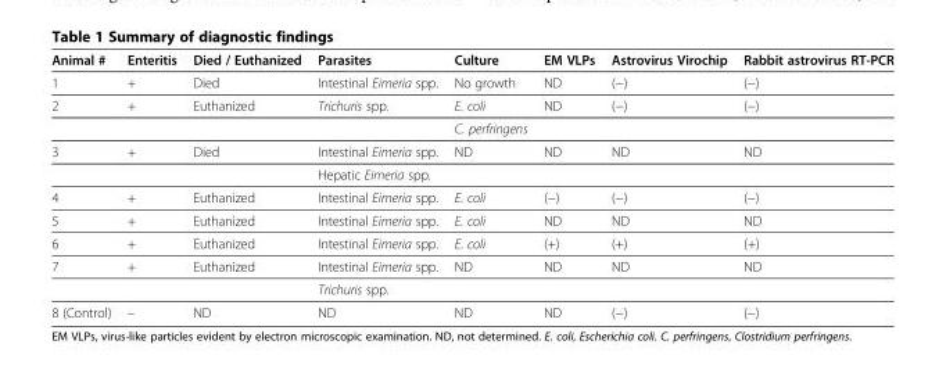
<table><thead><tr><td>Animal #</td><td>Enteritis</td><td>Died / Euthanized</td><td>Parasites</td><td>Culture</td><td>EM VLPs</td><td>Astrovirus Virochip</td><td>Rabbit astrovirus RT-PCR</td></tr></thead><tbody><tr><td>1</td><td>+</td><td>Died</td><td>Intestinal Eimeria spp.</td><td>No growth</td><td>ND</td><td>(−)</td><td>(−)</td></tr><tr><td rowspan="2">2</td><td>+</td><td>Euthanized</td><td>Trichuris spp.</td><td>E. coli</td><td>ND</td><td>(−)</td><td>(−)</td></tr><tr><td></td><td></td><td></td><td>C. perfringens</td><td></td><td></td><td></td></tr><tr><td rowspan="2">3</td><td>+</td><td>Died</td><td>Intestinal Eimeria spp.</td><td>ND</td><td>ND</td><td>ND</td><td>ND</td></tr><tr><td></td><td></td><td>Hepatic Eimeria spp.</td><td></td><td></td><td></td><td></td></tr><tr><td>4</td><td>+</td><td>Euthanized</td><td>Intestinal Eimeria spp.</td><td>E. coli</td><td>(−)</td><td>(−)</td><td>(−)</td></tr><tr><td>5</td><td>+</td><td>Euthanized</td><td>Intestinal Eimeria spp.</td><td>E. coli</td><td>ND</td><td>ND</td><td>ND</td></tr><tr><td>6</td><td>+</td><td>Euthanized</td><td>Intestinal Eimeria spp.</td><td>E. coli</td><td>(+)</td><td>(+)</td><td>(+)</td></tr><tr><td rowspan="2">7</td><td>+</td><td>Euthanized</td><td>Intestinal Eimeria spp.</td><td>ND</td><td>ND</td><td>ND</td><td>ND</td></tr><tr><td></td><td></td><td>Trichuris spp.</td><td></td><td></td><td></td><td></td></tr><tr><td>8 (Control)</td><td>–</td><td>ND</td><td>ND</td><td>ND</td><td>ND</td><td>(−)</td><td>(−)</td></tr></tbody></table>